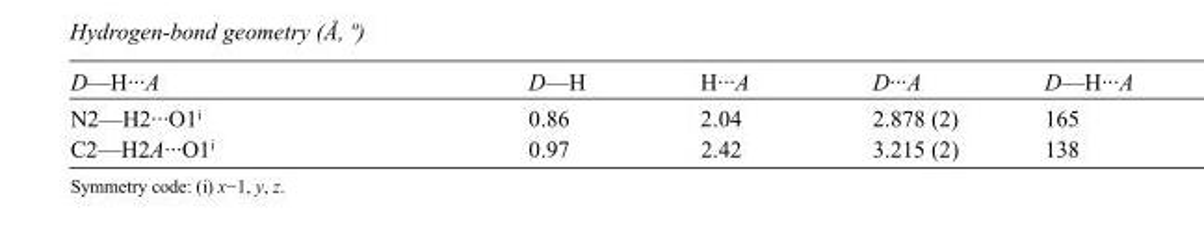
<table><tbody><tr><td>D—H···A</td><td>D—H</td><td>H···A</td><td>D···A</td><td>D—H···A</td></tr><tr><td>N2—H2···O1<sup>i</sup></td><td>0.86</td><td>2.04</td><td>2.878 (2)</td><td>165</td></tr><tr><td>C2—H2A···O1<sup>i</sup></td><td>0.97</td><td>2.42</td><td>3.215 (2)</td><td>138</td></tr></tbody></table>